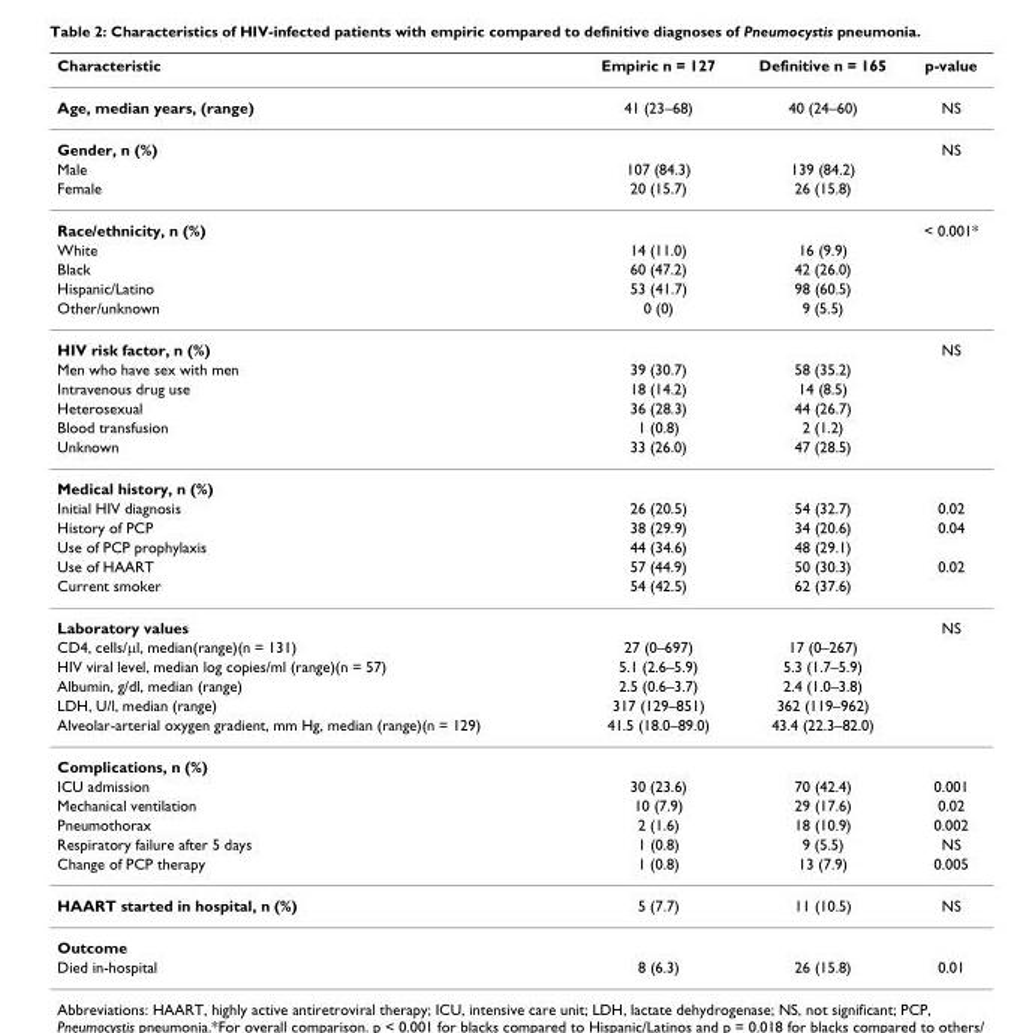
<table><thead><tr><td>Characteristic</td><td>Empiric n = 127</td><td>Definitive n = 165</td><td>p-value</td></tr></thead><tbody><tr><td>Age, median years, (range)</td><td>41 (23–68)</td><td>40 (24–60)</td><td>NS</td></tr><tr><td>Gender, n (%)</td><td></td><td></td><td>NS</td></tr><tr><td>Male</td><td>107 (84.3)</td><td>139 (84.2)</td><td></td></tr><tr><td>Female</td><td>20 (15.7)</td><td>26 (15.8)</td><td></td></tr><tr><td>Race/ethnicity, n (%)</td><td></td><td></td><td>&lt; 0.001*</td></tr><tr><td>White</td><td>14 (11.0)</td><td>16 (9.9)</td><td></td></tr><tr><td>Black</td><td>60 (47.2)</td><td>42 (26.0)</td><td></td></tr><tr><td>Hispanic/Latino</td><td>53 (41.7)</td><td>98 (60.5)</td><td></td></tr><tr><td>Other/unknown</td><td>0 (0)</td><td>9 (5.5)</td><td></td></tr><tr><td>HIV risk factor, n (%)</td><td></td><td></td><td>NS</td></tr><tr><td>Men who have sex with men</td><td>39 (30.7)</td><td>58 (35.2)</td><td></td></tr><tr><td>Intravenous drug use</td><td>18 (14.2)</td><td>14 (8.5)</td><td></td></tr><tr><td>Heterosexual</td><td>36 (28.3)</td><td>44 (26.7)</td><td></td></tr><tr><td>Blood transfusion</td><td>1 (0.8)</td><td>2 (1.2)</td><td></td></tr><tr><td>Unknown</td><td>33 (26.0)</td><td>47 (28.5)</td><td></td></tr><tr><td colspan="4">Medical history, n (%)</td></tr><tr><td>Initial HIV diagnosis</td><td>26 (20.5)</td><td>54 (32.7)</td><td>0.02</td></tr><tr><td>History of PCP</td><td>38 (29.9)</td><td>34 (20.6)</td><td>0.04</td></tr><tr><td>Use of PCP prophylaxis</td><td>44 (34.6)</td><td>48 (29.1)</td><td></td></tr><tr><td>Use of HAART</td><td>57 (44.9)</td><td>50 (30.3)</td><td>0.02</td></tr><tr><td>Current smoker</td><td>54 (42.5)</td><td>62 (37.6)</td><td></td></tr><tr><td>Laboratory values</td><td></td><td></td><td>NS</td></tr><tr><td>CD4, cells/μl, median(range)(n = 131)</td><td>27 (0–697)</td><td>17 (0–267)</td><td></td></tr><tr><td>HIV viral level, median log copies/ml (range)(n = 57)</td><td>5.1 (2.6–5.9)</td><td>5.3 (1.7–5.9)</td><td></td></tr><tr><td>Albumin, g/dl, median (range)</td><td>2.5 (0.6–3.7)</td><td>2.4 (1.0–3.8)</td><td></td></tr><tr><td>LDH, U/l, median (range)</td><td>317 (129–851)</td><td>362 (119–962)</td><td></td></tr><tr><td>Alveolar-arterial oxygen gradient, mm Hg, median (range)(n = 129)</td><td>41.5 (18.0–89.0)</td><td>43.4 (22.3–82.0)</td><td></td></tr><tr><td colspan="4">Complications, n (%)</td></tr><tr><td>ICU admission</td><td>30 (23.6)</td><td>70 (42.4)</td><td>0.001</td></tr><tr><td>Mechanical ventilation</td><td>10 (7.9)</td><td>29 (17.6)</td><td>0.02</td></tr><tr><td>Pneumothorax</td><td>2 (1.6)</td><td>18 (10.9)</td><td>0.002</td></tr><tr><td>Respiratory failure after 5 days</td><td>1 (0.8)</td><td>9 (5.5)</td><td>NS</td></tr><tr><td>Change of PCP therapy</td><td>1 (0.8)</td><td>13 (7.9)</td><td>0.005</td></tr><tr><td>HAART started in hospital, n (%)</td><td>5 (7.7)</td><td>11 (10.5)</td><td>NS</td></tr><tr><td colspan="4">Outcome</td></tr><tr><td>Died in-hospital</td><td>8 (6.3)</td><td>26 (15.8)</td><td>0.01</td></tr></tbody></table>